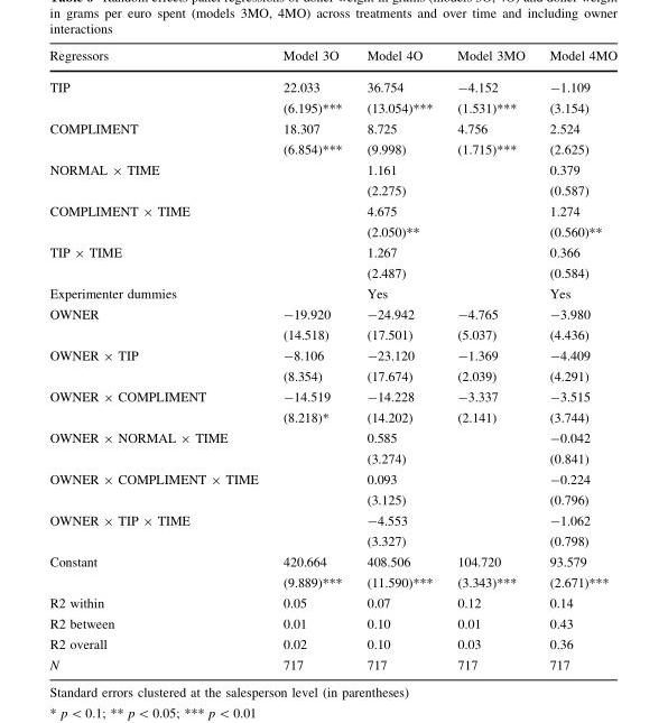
<table><thead><tr><td>Regressors</td><td>Model 3O</td><td>Model 4O</td><td>Model 3MO</td><td>Model 4MO</td></tr></thead><tbody><tr><td rowspan="2">TIP</td><td>22.033</td><td>36.754</td><td>-4.152</td><td>-1.109</td></tr><tr><td>(6.195)***</td><td>(13.054)***</td><td>(1.531)***</td><td>(3.154)</td></tr><tr><td rowspan="2">COMPLIMENT</td><td>18.307</td><td>8.725</td><td>4.756</td><td>2.524</td></tr><tr><td>(6.854)***</td><td>(9.998)</td><td>(1.715)***</td><td>(2.625)</td></tr><tr><td rowspan="2">NORMAL × TIME</td><td></td><td>1.161</td><td></td><td>0.379</td></tr><tr><td></td><td>(2.275)</td><td></td><td>(0.587)</td></tr><tr><td rowspan="2">COMPLIMENT × TIME</td><td></td><td>4.675</td><td></td><td>1.274</td></tr><tr><td></td><td>(2.050)**</td><td></td><td>(0.560)**</td></tr><tr><td rowspan="2">TIP × TIME</td><td></td><td>1.267</td><td></td><td>0.366</td></tr><tr><td></td><td>(2.487)</td><td></td><td>(0.584)</td></tr><tr><td>Experimenter dummies</td><td></td><td>Yes</td><td></td><td>Yes</td></tr><tr><td rowspan="2">OWNER</td><td>-19.920</td><td>-24.942</td><td>-4.765</td><td>-3.980</td></tr><tr><td>(14.518)</td><td>(17.501)</td><td>(5.037)</td><td>(4.436)</td></tr><tr><td rowspan="2">OWNER × TIP</td><td>-8.106</td><td>-23.120</td><td>-1.369</td><td>-4.409</td></tr><tr><td>(8.354)</td><td>(17.674)</td><td>(2.039)</td><td>(4.291)</td></tr><tr><td rowspan="2">OWNER × COMPLIMENT</td><td>-14.519</td><td>-14.228</td><td>-3.337</td><td>-3.515</td></tr><tr><td>(8.218)*</td><td>(14.202)</td><td>(2.141)</td><td>(3.744)</td></tr><tr><td rowspan="2">OWNER × NORMAL × TIME</td><td></td><td>0.585</td><td></td><td>-0.042</td></tr><tr><td></td><td>(3.274)</td><td></td><td>(0.841)</td></tr><tr><td rowspan="2">OWNER × COMPLIMENT × TIME</td><td></td><td>0.093</td><td></td><td>-0.224</td></tr><tr><td></td><td>(3.125)</td><td></td><td>(0.796)</td></tr><tr><td rowspan="2">OWNER × TIP × TIME</td><td></td><td>-4.553</td><td></td><td>-1.062</td></tr><tr><td></td><td>(3.327)</td><td></td><td>(0.798)</td></tr><tr><td rowspan="2">Constant</td><td>420.664</td><td>408.506</td><td>104.720</td><td>93.579</td></tr><tr><td>(9.889)***</td><td>(11.590)***</td><td>(3.343)***</td><td>(2.671)***</td></tr><tr><td>R2 within</td><td>0.05</td><td>0.07</td><td>0.12</td><td>0.14</td></tr><tr><td>R2 between</td><td>0.01</td><td>0.10</td><td>0.01</td><td>0.43</td></tr><tr><td>R2 overall</td><td>0.02</td><td>0.10</td><td>0.03</td><td>0.36</td></tr><tr><td>N</td><td>717</td><td>717</td><td>717</td><td>717</td></tr></tbody></table>